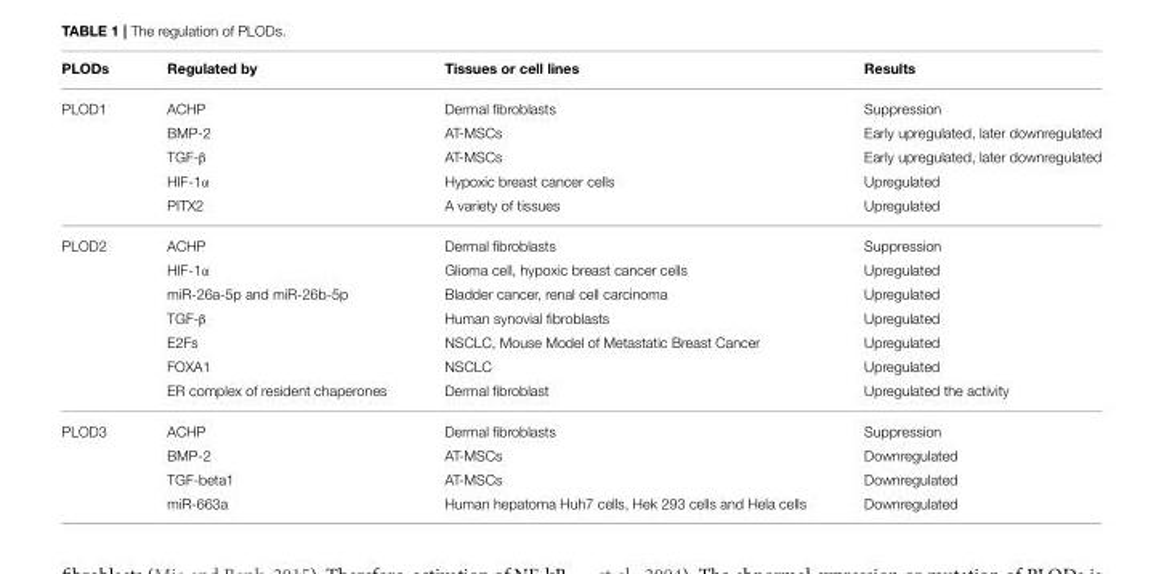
<table><thead><tr><td>PLODs</td><td>Regulated by</td><td>Tissues or cell lines</td><td>Results</td></tr></thead><tbody><tr><td rowspan="5">PLOD1</td><td>ACHP</td><td>Dermal fibroblasts</td><td>Suppression</td></tr><tr><td>BMP-2</td><td>AT-MSCs</td><td>Early upregulated, later downregulated</td></tr><tr><td>TGF-β</td><td>AT-MSCs</td><td>Early upregulated, later downregulated</td></tr><tr><td>HIF-1α</td><td>Hypoxic breast cancer cells</td><td>Upregulated</td></tr><tr><td>PITX2</td><td>A variety of tissues</td><td>Upregulated</td></tr><tr><td rowspan="7">PLOD2</td><td>ACHP</td><td>Dermal fibroblasts</td><td>Suppression</td></tr><tr><td>HIF-1α</td><td>Glioma cell, hypoxic breast cancer cells</td><td>Upregulated</td></tr><tr><td>miR-26a-5p and miR-26b-5p</td><td>Bladder cancer, renal cell carcinoma</td><td>Upregulated</td></tr><tr><td>TGF-β</td><td>Human synovial fibroblasts</td><td>Upregulated</td></tr><tr><td>E2Fs</td><td>NSCLC, Mouse Model of Metastatic Breast Cancer</td><td>Upregulated</td></tr><tr><td>FOXA1</td><td>NSCLC</td><td>Upregulated</td></tr><tr><td>ER complex of resident chaperones</td><td>Dermal fibroblast</td><td>Upregulated the activity</td></tr><tr><td rowspan="4">PLOD3</td><td>ACHP</td><td>Dermal fibroblasts</td><td>Suppression</td></tr><tr><td>BMP-2</td><td>AT-MSCs</td><td>Downregulated</td></tr><tr><td>TGF-beta1</td><td>AT-MSCs</td><td>Downregulated</td></tr><tr><td>miR-663a</td><td>Human hepatoma Huh7 cells, Hek 293 cells and Hela cells</td><td>Downregulated</td></tr></tbody></table>